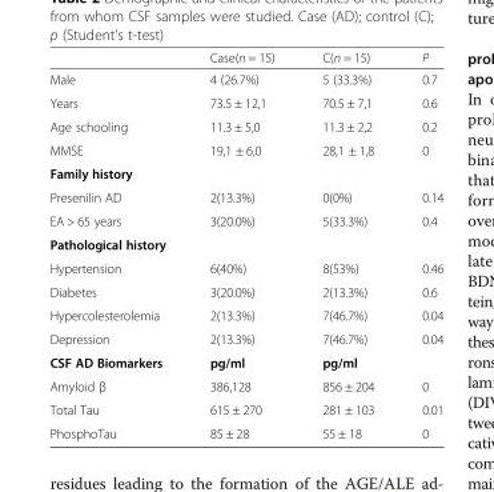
<table><thead><tr><td></td><td>Case(n = 15)</td><td>C(n = 15)</td><td>P</td></tr></thead><tbody><tr><td>Male</td><td>4 (26.7%)</td><td>5 (33.3%)</td><td>0.7</td></tr><tr><td>Years</td><td>73.5 ± 12,1</td><td>70.5 ± 7,1</td><td>0.6</td></tr><tr><td>Age schooling</td><td>11.3 ± 5,0</td><td>11.3 ± 2,2</td><td>0.2</td></tr><tr><td>MMSE</td><td>19,1 ± 6,0</td><td>28,1 ± 1,8</td><td>0</td></tr><tr><td colspan="4">Family history</td></tr><tr><td>Presenilin AD</td><td>2(13.3%)</td><td>0(0%)</td><td>0.14</td></tr><tr><td>EA &gt; 65 years</td><td>3(20.0%)</td><td>5(33.3%)</td><td>0.4</td></tr><tr><td colspan="4">Pathological history</td></tr><tr><td>Hypertension</td><td>6(40%)</td><td>8(53%)</td><td>0.46</td></tr><tr><td>Diabetes</td><td>3(20.0%)</td><td>2(13.3%)</td><td>0.6</td></tr><tr><td>Hypercolesterolemia</td><td>2(13.3%)</td><td>7(46.7%)</td><td>0.04</td></tr><tr><td>Depression</td><td>2(13.3%)</td><td>7(46.7%)</td><td>0.04</td></tr><tr><td>CSF AD Biomarkers</td><td>pg/ml</td><td>pg/ml</td><td></td></tr><tr><td>Amyloid β</td><td>386,128</td><td>856 ± 204</td><td>0</td></tr><tr><td>Total Tau</td><td>615 ± 270</td><td>281 ± 103</td><td>0.01</td></tr><tr><td>PhosphoTau</td><td>85 ± 28</td><td>55 ± 18</td><td>0</td></tr></tbody></table>